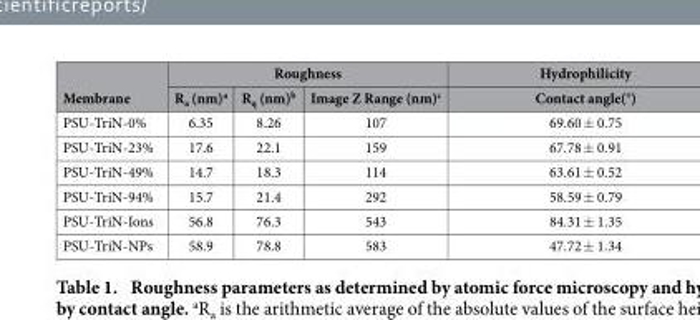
<table><thead><tr><td rowspan="2">Membrane</td><td colspan="3">Roughness</td><td rowspan="2">Hydrophilicity Contact angle(°)</td></tr><tr><td>R<sub>a</sub> (nm)<sup>a</sup></td><td>R<sub>q</sub> (nm)<sup>b</sup></td><td>Image Z Range (nm)<sup>c</sup></td></tr></thead><tbody><tr><td>PSU-TriN-0%</td><td>6.35</td><td>8.26</td><td>107</td><td>69.60 ± 0.75</td></tr><tr><td>PSU-TriN-23%</td><td>17.6</td><td>22.1</td><td>159</td><td>67.78 ± 0.91</td></tr><tr><td>PSU-TriN-49%</td><td>14.7</td><td>18.3</td><td>114</td><td>63.61 ± 0.52</td></tr><tr><td>PSU-TriN-94%</td><td>15.7</td><td>21.4</td><td>292</td><td>58.59 ± 0.79</td></tr><tr><td>PSU-TriN-Ions</td><td>56.8</td><td>76.3</td><td>543</td><td>84.31 ± 1.35</td></tr><tr><td>PSU-TriN-NPs</td><td>58.9</td><td>78.8</td><td>583</td><td>47.72 ± 1.34</td></tr></tbody></table>